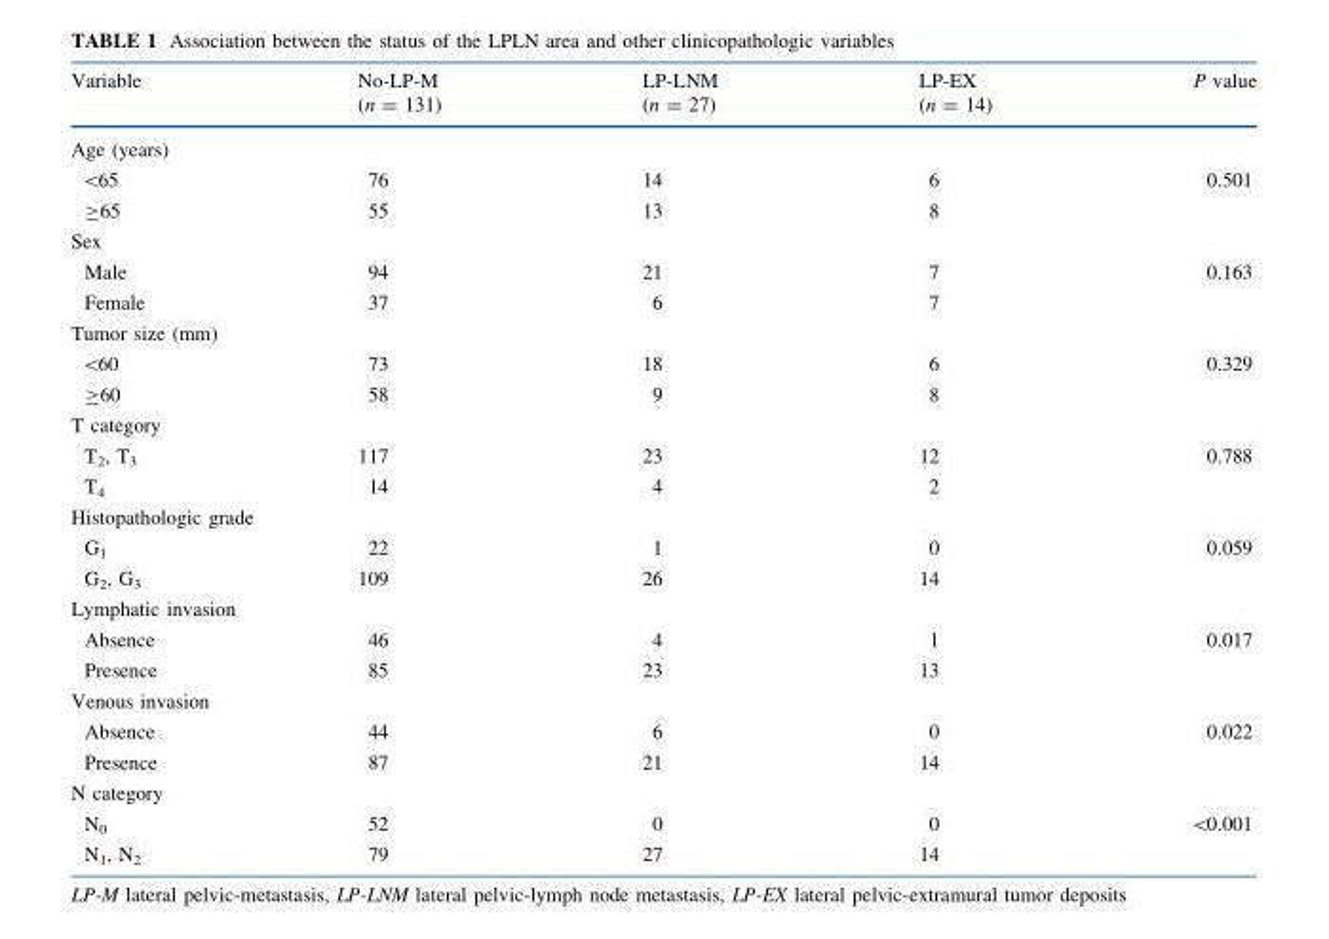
<table><thead><tr><td rowspan="2">Variable</td><td rowspan="2">No-LP-M (n = 131)</td><td rowspan="2">LP-LNM (n = 27)</td><td rowspan="2">LP-EX (n = 14)</td><td rowspan="2">P value</td></tr><tr></tr></thead><tbody><tr><td colspan="5">Age (years)</td></tr><tr><td>&lt;65</td><td>76</td><td>14</td><td>6</td><td rowspan="2">0.501</td></tr><tr><td>≥65</td><td>55</td><td>13</td><td>8</td></tr><tr><td colspan="5">Sex</td></tr><tr><td>Male</td><td>94</td><td>21</td><td>7</td><td rowspan="2">0.163</td></tr><tr><td>Female</td><td>37</td><td>6</td><td>7</td></tr><tr><td colspan="5">Tumor size (mm)</td></tr><tr><td>&lt;60</td><td>73</td><td>18</td><td>6</td><td rowspan="2">0.329</td></tr><tr><td>≥60</td><td>58</td><td>9</td><td>8</td></tr><tr><td colspan="5">T category</td></tr><tr><td>T<sub>2</sub>, T<sub>3</sub></td><td>117</td><td>23</td><td>12</td><td rowspan="2">0.788</td></tr><tr><td>T<sub>4</sub></td><td>14</td><td>4</td><td>2</td></tr><tr><td colspan="5">Histopathologic grade</td></tr><tr><td>G<sub>1</sub></td><td>22</td><td>1</td><td>0</td><td rowspan="2">0.059</td></tr><tr><td>G<sub>2</sub>, G<sub>3</sub></td><td>109</td><td>26</td><td>14</td></tr><tr><td colspan="5">Lymphatic invasion</td></tr><tr><td>Absence</td><td>46</td><td>4</td><td>1</td><td rowspan="2">0.017</td></tr><tr><td>Presence</td><td>85</td><td>23</td><td>13</td></tr><tr><td colspan="5">Venous invasion</td></tr><tr><td>Absence</td><td>44</td><td>6</td><td>0</td><td rowspan="2">0.022</td></tr><tr><td>Presence</td><td>87</td><td>21</td><td>14</td></tr><tr><td colspan="5">N category</td></tr><tr><td>N<sub>0</sub></td><td>52</td><td>0</td><td>0</td><td rowspan="2">&lt;0.001</td></tr><tr><td>N<sub>1</sub>, N<sub>2</sub></td><td>79</td><td>27</td><td>14</td></tr></tbody></table>